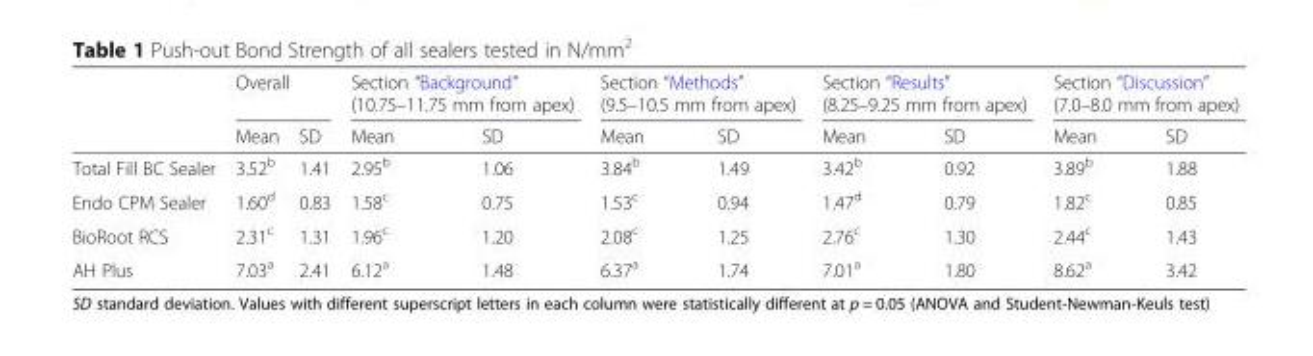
<table><thead><tr><td rowspan="2"></td><td colspan="2">Overall</td><td colspan="2">Section “Background” (10.75–11.75 mm from apex)</td><td colspan="2">Section “Methods” (9.5–10.5 mm from apex)</td><td colspan="2">Section “Results” (8.25–9.25 mm from apex)</td><td colspan="2">Section “Discussion” (7.0–8.0 mm from apex)</td></tr><tr><td>Mean</td><td>SD</td><td>Mean</td><td>SD</td><td>Mean</td><td>SD</td><td>Mean</td><td>SD</td><td>Mean</td><td>SD</td></tr></thead><tbody><tr><td>Total Fill BC Sealer</td><td>3.52<sup>b</sup></td><td>1.41</td><td>2.95<sup>b</sup></td><td>1.06</td><td>3.84<sup>b</sup></td><td>1.49</td><td>3.42<sup>b</sup></td><td>0.92</td><td>3.89<sup>b</sup></td><td>1.88</td></tr><tr><td>Endo CPM Sealer</td><td>1.60<sup>d</sup></td><td>0.83</td><td>1.58<sup>c</sup></td><td>0.75</td><td>1.53<sup>c</sup></td><td>0.94</td><td>1.47<sup>d</sup></td><td>0.79</td><td>1.82<sup>c</sup></td><td>0.85</td></tr><tr><td>BioRoot RCS</td><td>2.31<sup>c</sup></td><td>1.31</td><td>1.96<sup>c</sup></td><td>1.20</td><td>2.08<sup>c</sup></td><td>1.25</td><td>2.76<sup>c</sup></td><td>1.30</td><td>2.44<sup>c</sup></td><td>1.43</td></tr><tr><td>AH Plus</td><td>7.03<sup>a</sup></td><td>2.41</td><td>6.12<sup>a</sup></td><td>1.48</td><td>6.37<sup>a</sup></td><td>1.74</td><td>7.01<sup>a</sup></td><td>1.80</td><td>8.62<sup>a</sup></td><td>3.42</td></tr></tbody></table>